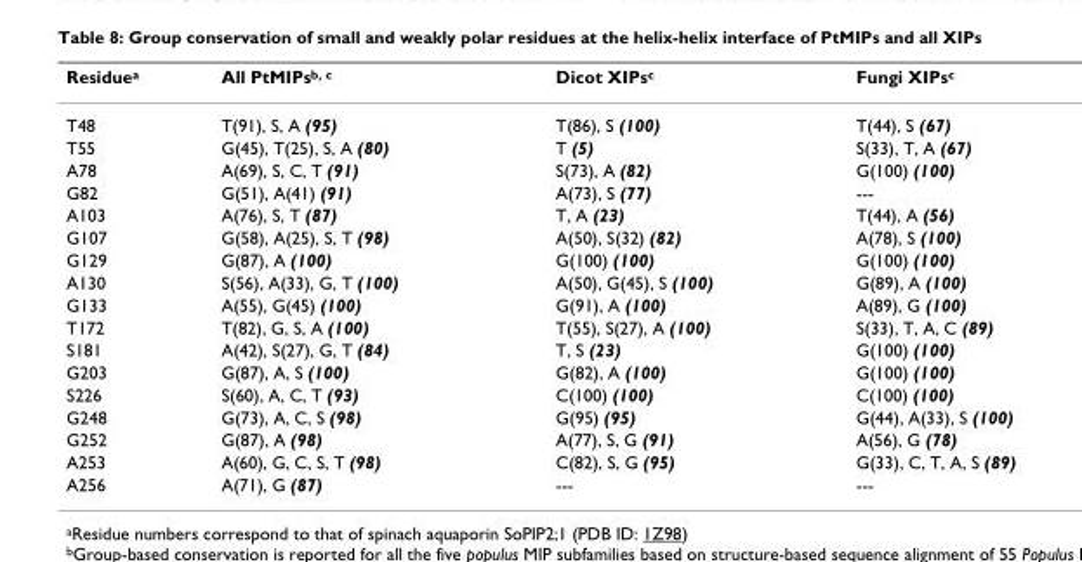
<table><thead><tr><td>Residue<sup>a</sup></td><td>All PtMIPs<sup>b, c</sup></td><td>Dicot XIPs<sup>c</sup></td><td>Fungi XIPs<sup>c</sup></td></tr></thead><tbody><tr><td>T48</td><td>T(91), S, A (95)</td><td>T(86), S (100)</td><td>T(44), S (67)</td></tr><tr><td>T55</td><td>G(45), T(25), S, A (80)</td><td>T (5)</td><td>S(33), T, A (67)</td></tr><tr><td>A78</td><td>A(69), S, C, T (91)</td><td>S(73), A (82)</td><td>G(100) (100)</td></tr><tr><td>G82</td><td>G(51), A(41) (91)</td><td>A(73), S (77)</td><td>---</td></tr><tr><td>A103</td><td>A(76), S, T (87)</td><td>T, A (23)</td><td>T(44), A (56)</td></tr><tr><td>G107</td><td>G(58), A(25), S, T (98)</td><td>A(50), S(32) (82)</td><td>A(78), S (100)</td></tr><tr><td>G129</td><td>G(87), A (100)</td><td>G(100) (100)</td><td>G(100) (100)</td></tr><tr><td>A130</td><td>S(56), A(33), G, T (100)</td><td>A(50), G(45), S (100)</td><td>G(89), A (100)</td></tr><tr><td>G133</td><td>A(55), G(45) (100)</td><td>G(91), A (100)</td><td>A(89), G (100)</td></tr><tr><td>T172</td><td>T(82), G, S, A (100)</td><td>T(55), S(27), A (100)</td><td>S(33), T, A, C (89)</td></tr><tr><td>S181</td><td>A(42), S(27), G, T (84)</td><td>T, S (23)</td><td>G(100) (100)</td></tr><tr><td>G203</td><td>G(87), A, S (100)</td><td>G(82), A (100)</td><td>G(100) (100)</td></tr><tr><td>S226</td><td>S(60), A, C, T (93)</td><td>C(100) (100)</td><td>C(100) (100)</td></tr><tr><td>G248</td><td>G(73), A, C, S (98)</td><td>G(95) (95)</td><td>G(44), A(33), S (100)</td></tr><tr><td>G252</td><td>G(87), A (98)</td><td>A(77), S, G (91)</td><td>A(56), G (78)</td></tr><tr><td>A253</td><td>A(60), G, C, S, T (98)</td><td>C(82), S, G (95)</td><td>G(33), C, T, A, S (89)</td></tr><tr><td>A256</td><td>A(71), G (87)</td><td>---</td><td>---</td></tr></tbody></table>